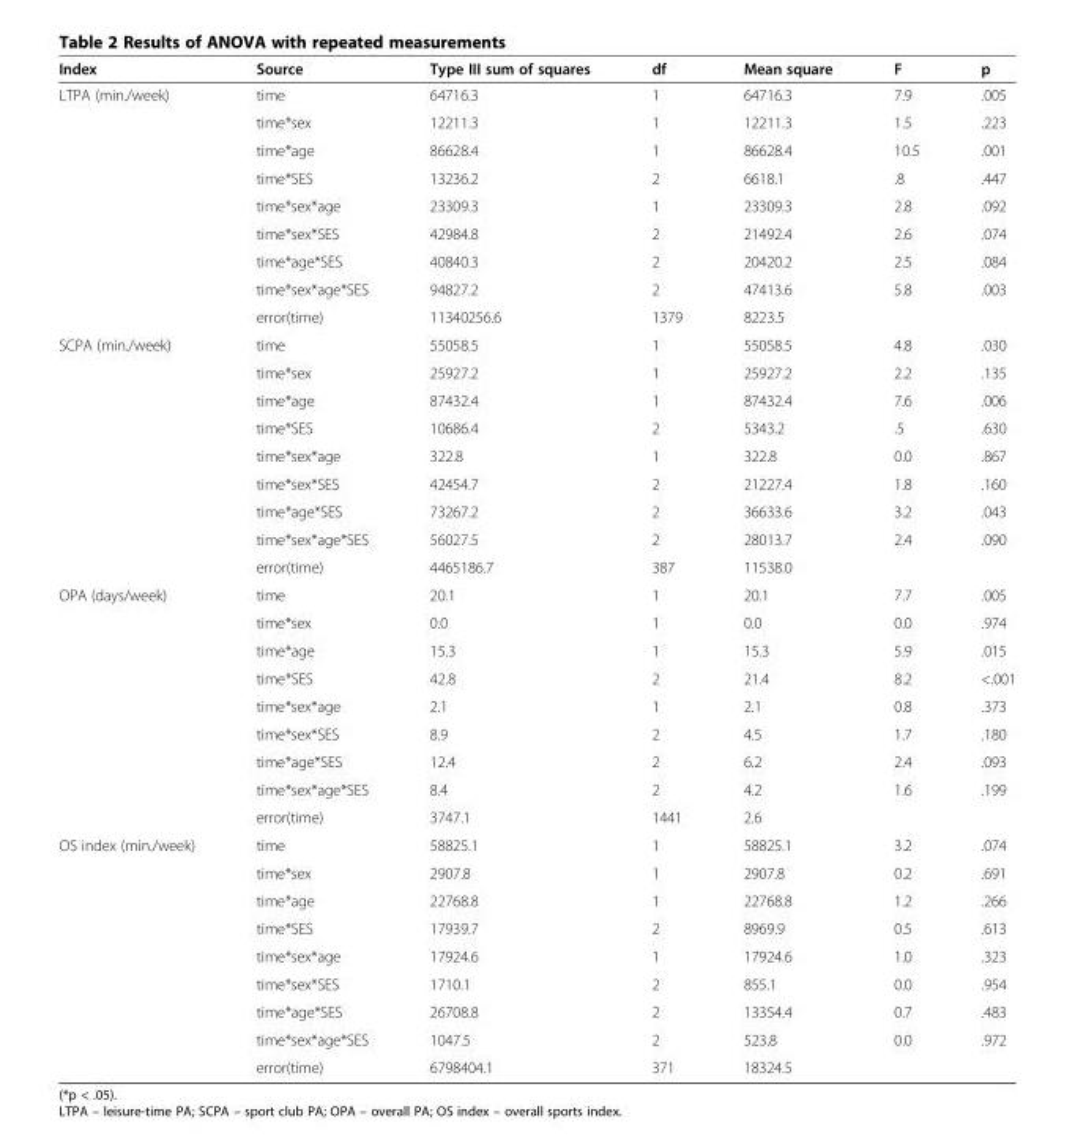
<table><thead><tr><td>Index</td><td>Source</td><td>Type III sum of squares</td><td>df</td><td>Mean square</td><td>F</td><td>p</td></tr></thead><tbody><tr><td rowspan="9">LTPA (min./week)</td><td>time</td><td>64716.3</td><td>1</td><td>64716.3</td><td>7.9</td><td>.005</td></tr><tr><td>time*sex</td><td>12211.3</td><td>1</td><td>12211.3</td><td>1.5</td><td>.223</td></tr><tr><td>time*age</td><td>86628.4</td><td>1</td><td>86628.4</td><td>10.5</td><td>.001</td></tr><tr><td>time*SES</td><td>13236.2</td><td>2</td><td>6618.1</td><td>.8</td><td>.447</td></tr><tr><td>time*sex*age</td><td>23309.3</td><td>1</td><td>23309.3</td><td>2.8</td><td>.092</td></tr><tr><td>time*sex*SES</td><td>42984.8</td><td>2</td><td>21492.4</td><td>2.6</td><td>.074</td></tr><tr><td>time*age*SES</td><td>40840.3</td><td>2</td><td>20420.2</td><td>2.5</td><td>.084</td></tr><tr><td>time*sex*age*SES</td><td>94827.2</td><td>2</td><td>47413.6</td><td>5.8</td><td>.003</td></tr><tr><td>error(time)</td><td>11340256.6</td><td>1379</td><td>8223.5</td><td></td><td></td></tr><tr><td rowspan="9">SCPA (min./week)</td><td>time</td><td>55058.5</td><td>1</td><td>55058.5</td><td>4.8</td><td>.030</td></tr><tr><td>time*sex</td><td>25927.2</td><td>1</td><td>25927.2</td><td>2.2</td><td>.135</td></tr><tr><td>time*age</td><td>87432.4</td><td>1</td><td>87432.4</td><td>7.6</td><td>.006</td></tr><tr><td>time*SES</td><td>10686.4</td><td>2</td><td>5343.2</td><td>.5</td><td>.630</td></tr><tr><td>time*sex*age</td><td>322.8</td><td>1</td><td>322.8</td><td>0.0</td><td>.867</td></tr><tr><td>time*sex*SES</td><td>42454.7</td><td>2</td><td>21227.4</td><td>1.8</td><td>.160</td></tr><tr><td>time*age*SES</td><td>73267.2</td><td>2</td><td>36633.6</td><td>3.2</td><td>.043</td></tr><tr><td>time*sex*age*SES</td><td>56027.5</td><td>2</td><td>28013.7</td><td>2.4</td><td>.090</td></tr><tr><td>error(time)</td><td>4465186.7</td><td>387</td><td>11538.0</td><td></td><td></td></tr><tr><td rowspan="9">OPA (days/week)</td><td>time</td><td>20.1</td><td>1</td><td>20.1</td><td>7.7</td><td>.005</td></tr><tr><td>time*sex</td><td>0.0</td><td>1</td><td>0.0</td><td>0.0</td><td>.974</td></tr><tr><td>time*age</td><td>15.3</td><td>1</td><td>15.3</td><td>5.9</td><td>.015</td></tr><tr><td>time*SES</td><td>42.8</td><td>2</td><td>21.4</td><td>8.2</td><td>&lt;.001</td></tr><tr><td>time*sex*age</td><td>2.1</td><td>1</td><td>2.1</td><td>0.8</td><td>.373</td></tr><tr><td>time*sex*SES</td><td>8.9</td><td>2</td><td>4.5</td><td>1.7</td><td>.180</td></tr><tr><td>time*age*SES</td><td>12.4</td><td>2</td><td>6.2</td><td>2.4</td><td>.093</td></tr><tr><td>time*sex*age*SES</td><td>8.4</td><td>2</td><td>4.2</td><td>1.6</td><td>.199</td></tr><tr><td>error(time)</td><td>3747.1</td><td>1441</td><td>2.6</td><td></td><td></td></tr><tr><td rowspan="9">OS index (min./week)</td><td>time</td><td>58825.1</td><td>1</td><td>58825.1</td><td>3.2</td><td>.074</td></tr><tr><td>time*sex</td><td>2907.8</td><td>1</td><td>2907.8</td><td>0.2</td><td>.691</td></tr><tr><td>time*age</td><td>22768.8</td><td>1</td><td>22768.8</td><td>1.2</td><td>.266</td></tr><tr><td>time*SES</td><td>17939.7</td><td>2</td><td>8969.9</td><td>0.5</td><td>.613</td></tr><tr><td>time*sex*age</td><td>17924.6</td><td>1</td><td>17924.6</td><td>1.0</td><td>.323</td></tr><tr><td>time*sex*SES</td><td>1710.1</td><td>2</td><td>855.1</td><td>0.0</td><td>.954</td></tr><tr><td>time*age*SES</td><td>26708.8</td><td>2</td><td>13354.4</td><td>0.7</td><td>.483</td></tr><tr><td>time*sex*age*SES</td><td>1047.5</td><td>2</td><td>523.8</td><td>0.0</td><td>.972</td></tr><tr><td>error(time)</td><td>6798404.1</td><td>371</td><td>18324.5</td><td></td><td></td></tr></tbody></table>